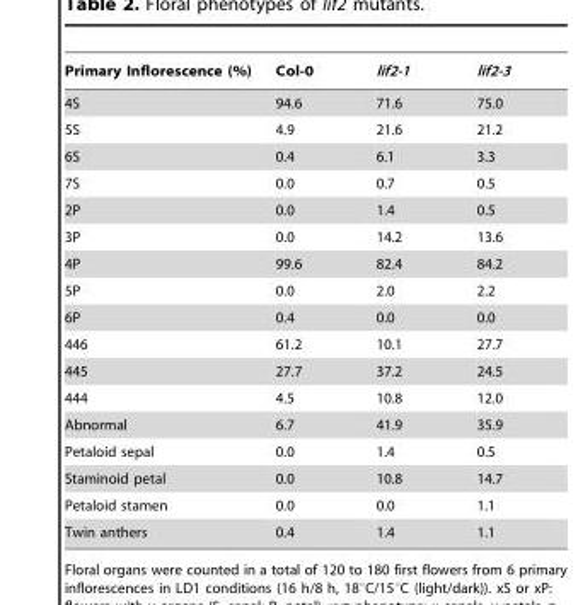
<table><thead><tr><td>Primary Inflorescence (%)</td><td>Col-0</td><td>lif2-1</td><td>lif2-3</td></tr></thead><tbody><tr><td>4S</td><td>94.6</td><td>71.6</td><td>75.0</td></tr><tr><td>5S</td><td>4.9</td><td>21.6</td><td>21.2</td></tr><tr><td>6S</td><td>0.4</td><td>6.1</td><td>3.3</td></tr><tr><td>7S</td><td>0.0</td><td>0.7</td><td>0.5</td></tr><tr><td>2P</td><td>0.0</td><td>1.4</td><td>0.5</td></tr><tr><td>3P</td><td>0.0</td><td>14.2</td><td>13.6</td></tr><tr><td>4P</td><td>99.6</td><td>82.4</td><td>84.2</td></tr><tr><td>5P</td><td>0.0</td><td>2.0</td><td>2.2</td></tr><tr><td>6P</td><td>0.4</td><td>0.0</td><td>0.0</td></tr><tr><td>446</td><td>61.2</td><td>10.1</td><td>27.7</td></tr><tr><td>445</td><td>27.7</td><td>37.2</td><td>24.5</td></tr><tr><td>444</td><td>4.5</td><td>10.8</td><td>12.0</td></tr><tr><td>Abnormal</td><td>6.7</td><td>41.9</td><td>35.9</td></tr><tr><td>Petaloid sepal</td><td>0.0</td><td>1.4</td><td>0.5</td></tr><tr><td>Staminoid petal</td><td>0.0</td><td>10.8</td><td>14.7</td></tr><tr><td>Petaloid stamen</td><td>0.0</td><td>0.0</td><td>1.1</td></tr><tr><td>Twin anthers</td><td>0.4</td><td>1.4</td><td>1.1</td></tr></tbody></table>